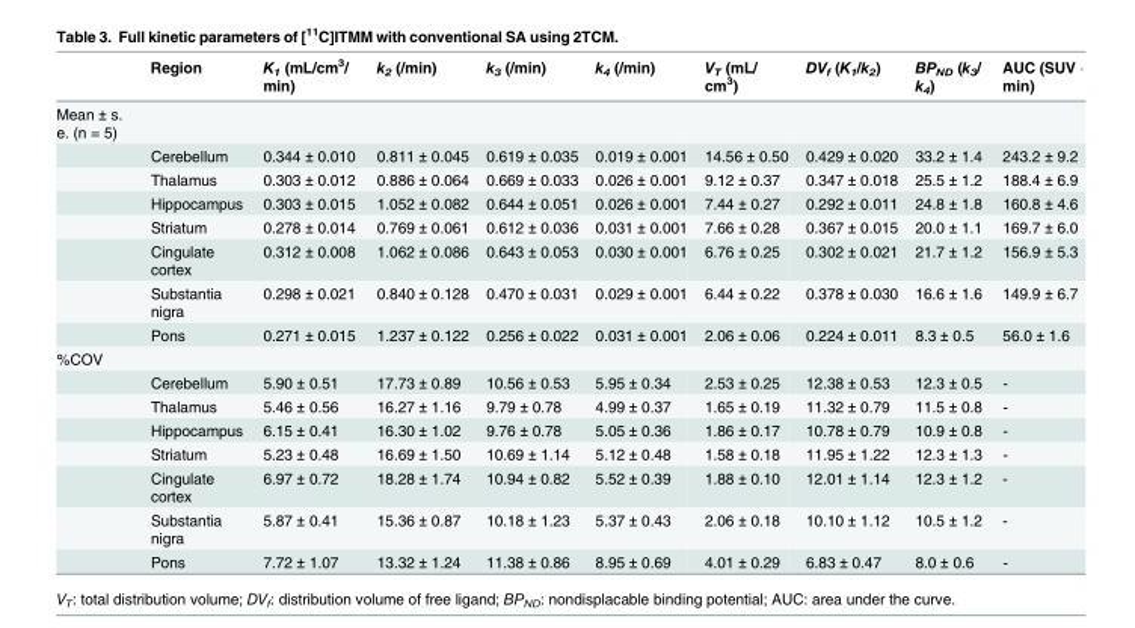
<table><thead><tr><td></td><td>Region</td><td>K<sub>1</sub> (mL/cm<sup>3</sup>/ min)</td><td>k<sub>2</sub> (/min)</td><td>k<sub>3</sub> (/min)</td><td>k<sub>4</sub> (/min)</td><td>V<sub>T</sub> (mL/ cm<sup>3</sup>)</td><td>DV<sub>f</sub> (K<sub>1</sub>/k<sub>2</sub>)</td><td>BP<sub>ND</sub> (k<sub>3</sub>/ k<sub>4</sub>)</td><td>AUC (SUV min)</td></tr></thead><tbody><tr><td colspan="10">Mean ± s. e. (n = 5)</td></tr><tr><td></td><td>Cerebellum</td><td>0.344 ± 0.010</td><td>0.811 ± 0.045</td><td>0.619 ± 0.035</td><td>0.019 ± 0.001</td><td>14.56 ± 0.50</td><td>0.429 ± 0.020</td><td>33.2 ± 1.4</td><td>243.2 ± 9.2</td></tr><tr><td></td><td>Thalamus</td><td>0.303 ± 0.012</td><td>0.886 ± 0.064</td><td>0.669 ± 0.033</td><td>0.026 ± 0.001</td><td>9.12 ± 0.37</td><td>0.347 ± 0.018</td><td>25.5 ± 1.2</td><td>188.4 ± 6.9</td></tr><tr><td></td><td>Hippocampus</td><td>0.303 ± 0.015</td><td>1.052 ± 0.082</td><td>0.644 ± 0.051</td><td>0.026 ± 0.001</td><td>7.44 ± 0.27</td><td>0.292 ± 0.011</td><td>24.8 ± 1.8</td><td>160.8 ± 4.6</td></tr><tr><td></td><td>Striatum</td><td>0.278 ± 0.014</td><td>0.769 ± 0.061</td><td>0.612 ± 0.036</td><td>0.031 ± 0.001</td><td>7.66 ± 0.28</td><td>0.367 ± 0.015</td><td>20.0 ± 1.1</td><td>169.7 ± 6.0</td></tr><tr><td></td><td>Cingulate cortex</td><td>0.312 ± 0.008</td><td>1.062 ± 0.086</td><td>0.643 ± 0.053</td><td>0.030 ± 0.001</td><td>6.76 ± 0.25</td><td>0.302 ± 0.021</td><td>21.7 ± 1.2</td><td>156.9 ± 5.3</td></tr><tr><td></td><td>Substantia nigra</td><td>0.298 ± 0.021</td><td>0.840 ± 0.128</td><td>0.470 ± 0.031</td><td>0.029 ± 0.001</td><td>6.44 ± 0.22</td><td>0.378 ± 0.030</td><td>16.6 ± 1.6</td><td>149.9 ± 6.7</td></tr><tr><td></td><td>Pons</td><td>0.271 ± 0.015</td><td>1.237 ± 0.122</td><td>0.256 ± 0.022</td><td>0.031 ± 0.001</td><td>2.06 ± 0.06</td><td>0.224 ± 0.011</td><td>8.3 ± 0.5</td><td>56.0 ± 1.6</td></tr><tr><td colspan="10">%COV</td></tr><tr><td></td><td>Cerebellum</td><td>5.90 ± 0.51</td><td>17.73 ± 0.89</td><td>10.56 ± 0.53</td><td>5.95 ± 0.34</td><td>2.53 ± 0.25</td><td>12.38 ± 0.53</td><td>12.3 ± 0.5</td><td>-</td></tr><tr><td></td><td>Thalamus</td><td>5.46 ± 0.56</td><td>16.27 ± 1.16</td><td>9.79 ± 0.78</td><td>4.99 ± 0.37</td><td>1.65 ± 0.19</td><td>11.32 ± 0.79</td><td>11.5 ± 0.8</td><td>-</td></tr><tr><td></td><td>Hippocampus</td><td>6.15 ± 0.41</td><td>16.30 ± 1.02</td><td>9.76 ± 0.78</td><td>5.05 ± 0.36</td><td>1.86 ± 0.17</td><td>10.78 ± 0.79</td><td>10.9 ± 0.8</td><td>-</td></tr><tr><td></td><td>Striatum</td><td>5.23 ± 0.48</td><td>16.69 ± 1.50</td><td>10.69 ± 1.14</td><td>5.12 ± 0.48</td><td>1.58 ± 0.18</td><td>11.95 ± 1.22</td><td>12.3 ± 1.3</td><td>-</td></tr><tr><td></td><td>Cingulate cortex</td><td>6.97 ± 0.72</td><td>18.28 ± 1.74</td><td>10.94 ± 0.82</td><td>5.52 ± 0.39</td><td>1.88 ± 0.10</td><td>12.01 ± 1.14</td><td>12.3 ± 1.2</td><td>-</td></tr><tr><td></td><td>Substantia nigra</td><td>5.87 ± 0.41</td><td>15.36 ± 0.87</td><td>10.18 ± 1.23</td><td>5.37 ± 0.43</td><td>2.06 ± 0.18</td><td>10.10 ± 1.12</td><td>10.5 ± 1.2</td><td>-</td></tr><tr><td></td><td>Pons</td><td>7.72 ± 1.07</td><td>13.32 ± 1.24</td><td>11.38 ± 0.86</td><td>8.95 ± 0.69</td><td>4.01 ± 0.29</td><td>6.83 ± 0.47</td><td>8.0 ± 0.6</td><td>-</td></tr></tbody></table>